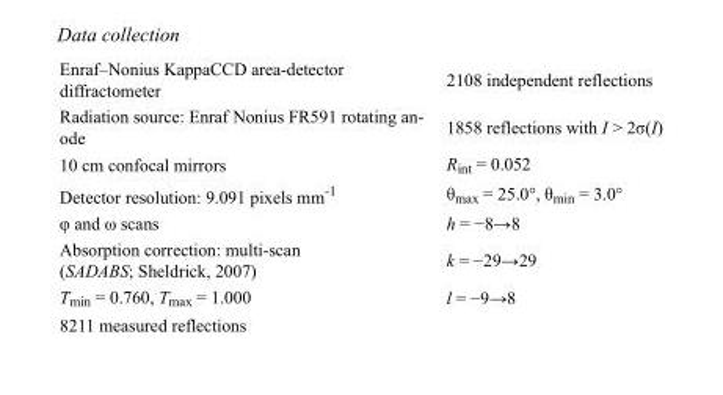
<table><tbody><tr><td>Enraf–Nonius KappaCCD area-detector diffractometer</td><td>2108 independent reflections</td></tr><tr><td>Radiation source: Enraf Nonius FR591 rotating an- ode</td><td>1858 reflections with I &gt; 2σ(I)</td></tr><tr><td>10 cm confocal mirrors</td><td>R<sub>int</sub> = 0.052</td></tr><tr><td>Detector resolution: 9.091 pixels mm<sup>-1</sup></td><td>θ<sub>max</sub> = 25.0°, θ<sub>min</sub> = 3.0°</td></tr><tr><td>φ and ω scans</td><td>h = −8→8</td></tr><tr><td>Absorption correction: multi-scan (SADABS; Sheldrick, 2007)</td><td>k = −29→29</td></tr><tr><td>T<sub>min</sub> = 0.760, T<sub>max</sub> = 1.000</td><td>l = −9→8</td></tr><tr><td>8211 measured reflections</td><td></td></tr></tbody></table>